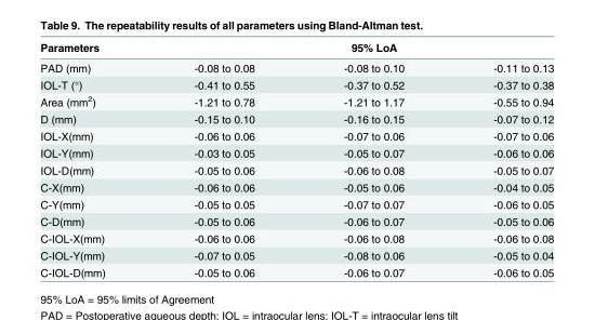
<table><thead><tr><td rowspan="2">Parameters PAD (mm)</td><td colspan="3">95% LoA</td></tr><tr><td>-0.08 to 0.08</td><td>-0.08 to 0.10</td><td>-0.11 to 0.13</td></tr></thead><tbody><tr><td>IOL-T (°)</td><td>-0.41 to 0.55</td><td>-0.37 to 0.52</td><td>-0.37 to 0.38</td></tr><tr><td>Area (mm<sup>2</sup>)</td><td>-1.21 to 0.78</td><td>-1.21 to 1.17</td><td>-0.55 to 0.94</td></tr><tr><td>D (mm)</td><td>-0.15 to 0.10</td><td>-0.16 to 0.15</td><td>-0.07 to 0.12</td></tr><tr><td>IOL-X(mm)</td><td>-0.06 to 0.06</td><td>-0.07 to 0.06</td><td>-0.07 to 0.06</td></tr><tr><td>IOL-Y(mm)</td><td>-0.03 to 0.05</td><td>-0.05 to 0.07</td><td>-0.06 to 0.06</td></tr><tr><td>IOL-D(mm)</td><td>-0.05 to 0.06</td><td>-0.06 to 0.08</td><td>-0.05 to 0.07</td></tr><tr><td>C-X(mm)</td><td>-0.06 to 0.06</td><td>-0.05 to 0.06</td><td>-0.04 to 0.05</td></tr><tr><td>C-Y(mm)</td><td>-0.05 to 0.05</td><td>-0.07 to 0.07</td><td>-0.06 to 0.05</td></tr><tr><td>C-D(mm)</td><td>-0.05 to 0.06</td><td>-0.06 to 0.07</td><td>-0.05 to 0.06</td></tr><tr><td>C-IOL-X(mm)</td><td>-0.06 to 0.06</td><td>-0.06 to 0.08</td><td>-0.06 to 0.08</td></tr><tr><td>C-IOL-Y(mm)</td><td>-0.07 to 0.05</td><td>-0.08 to 0.06</td><td>-0.05 to 0.04</td></tr><tr><td>C-IOL-D(mm)</td><td>-0.05 to 0.06</td><td>-0.06 to 0.07</td><td>-0.06 to 0.05</td></tr></tbody></table>